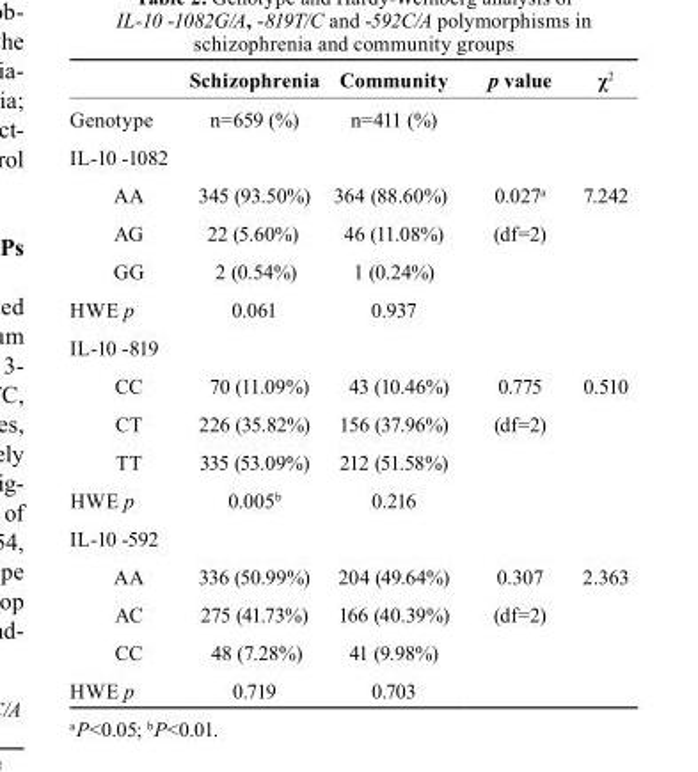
<table><thead><tr><td></td><td>schizophrenia</td><td>community</td><td>p value</td><td>χ<sup>2</sup></td></tr></thead><tbody><tr><td>Genotype</td><td>n=659 (%)</td><td>n=411 (%)</td><td></td><td></td></tr><tr><td colspan="5">IL-10 -1082</td></tr><tr><td>AA</td><td>345 (93.50%)</td><td>364 (88.60%)</td><td>0.027<sup>a</sup></td><td>7.242</td></tr><tr><td>AG</td><td>22 (5.60%)</td><td>46 (11.08%)</td><td>(df=2)</td><td></td></tr><tr><td>GG</td><td>2 (0.54%)</td><td>1 (0.24%)</td><td></td><td></td></tr><tr><td>HWE p</td><td>0.061</td><td>0.937</td><td></td><td></td></tr><tr><td colspan="5">IL-10 -819</td></tr><tr><td>CC</td><td>70 (11.09%)</td><td>43 (10.46%)</td><td>0.775</td><td>0.510</td></tr><tr><td>CT</td><td>226 (35.82%)</td><td>156 (37.96%)</td><td>(df=2)</td><td></td></tr><tr><td>TT</td><td>335 (53.09%)</td><td>212 (51.58%)</td><td></td><td></td></tr><tr><td>HWE p</td><td>0.005<sup>b</sup></td><td>0.216</td><td></td><td></td></tr><tr><td colspan="5">IL-10 -592</td></tr><tr><td>AA</td><td>336 (50.99%)</td><td>204 (49.64%)</td><td>0.307</td><td>2.363</td></tr><tr><td>AC</td><td>275 (41.73%)</td><td>166 (40.39%)</td><td>(df=2)</td><td></td></tr><tr><td>CC</td><td>48 (7.28%)</td><td>41 (9.98%)</td><td></td><td></td></tr><tr><td>HWE p</td><td>0.719</td><td>0.703</td><td></td><td></td></tr></tbody></table>